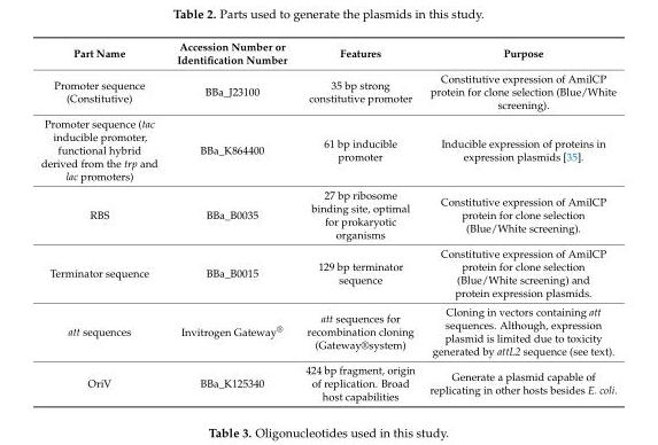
<table><thead><tr><td>Part Name</td><td>Accession Number or Identification Number</td><td>Features</td><td>Purpose</td></tr></thead><tbody><tr><td>Promoter sequence (Constitutive)</td><td>BBa_J23100</td><td>35 bp strong constitutive promoter</td><td>Constitutive expression of AmilCP protein for clone selection (Blue/White screening).</td></tr><tr><td>Promoter sequence (tac inducible promoter, functional hybrid derived from the trp and lac promoters)</td><td>BBa_K864400</td><td>61 bp inducible promoter</td><td>Inducible expression of proteins in expression plasmids [35].</td></tr><tr><td>RBS</td><td>BBa_B0035</td><td>27 bp ribosome binding site, optimal for prokaryotic organisms</td><td>Constitutive expression of AmilCP protein for clone selection (Blue/White screening).</td></tr><tr><td>Terminator sequence</td><td>BBa_B0015</td><td>129 bp terminator sequence</td><td>Constitutive expression of AmilCP protein for clone selection (Blue/White screening) and protein expression plasmids.</td></tr><tr><td>att sequences</td><td>Invitrogen Gateway<sup>®</sup></td><td>att sequences for recombination cloning (Gateway®system)</td><td>Cloning in vectors containing att sequences. Although, expression plasmid is limited due to toxicity generated by attL2 sequence (see text).</td></tr><tr><td>OriV</td><td>BBa_K125340</td><td>424 bp fragment, origin of replication. Broad host capabilities</td><td>Generate a plasmid capable of replicating in other hosts besides E. coli.</td></tr></tbody></table>